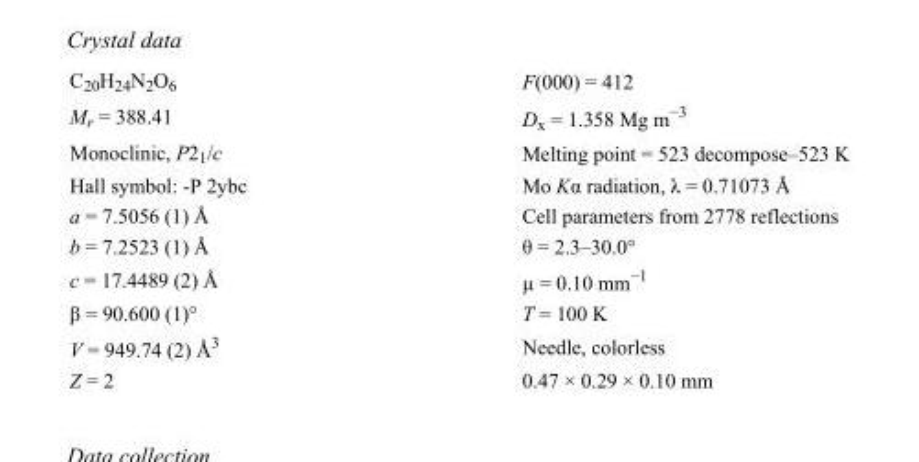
<table><tbody><tr><td>C<sub>20</sub>H<sub>24</sub>N<sub>2</sub>O<sub>6</sub></td><td>F(000) = 412</td></tr><tr><td>M<sub>r</sub> = 388.41</td><td>D<sub>x</sub> = 1.358 Mg m<sup>−3</sup></td></tr><tr><td>Monoclinic, P2<sub>1</sub>/c</td><td>Melting point = 523 decompose–523 K</td></tr><tr><td>Hall symbol: -P 2ybc</td><td>Mo Kα radiation, λ = 0.71073 Å</td></tr><tr><td>a = 7.5056 (1) Å</td><td>Cell parameters from 2778 reflections</td></tr><tr><td>b = 7.2523 (1) Å</td><td>θ = 2.3–30.0°</td></tr><tr><td>c = 17.4489 (2) Å</td><td>µ = 0.10 mm<sup>−1</sup></td></tr><tr><td>β = 90.600 (1)°</td><td>T = 100 K</td></tr><tr><td>V = 949.74 (2) Å<sup>3</sup></td><td>Needle, colorless</td></tr><tr><td>Z = 2</td><td>0.47 × 0.29 × 0.10 mm</td></tr></tbody></table>